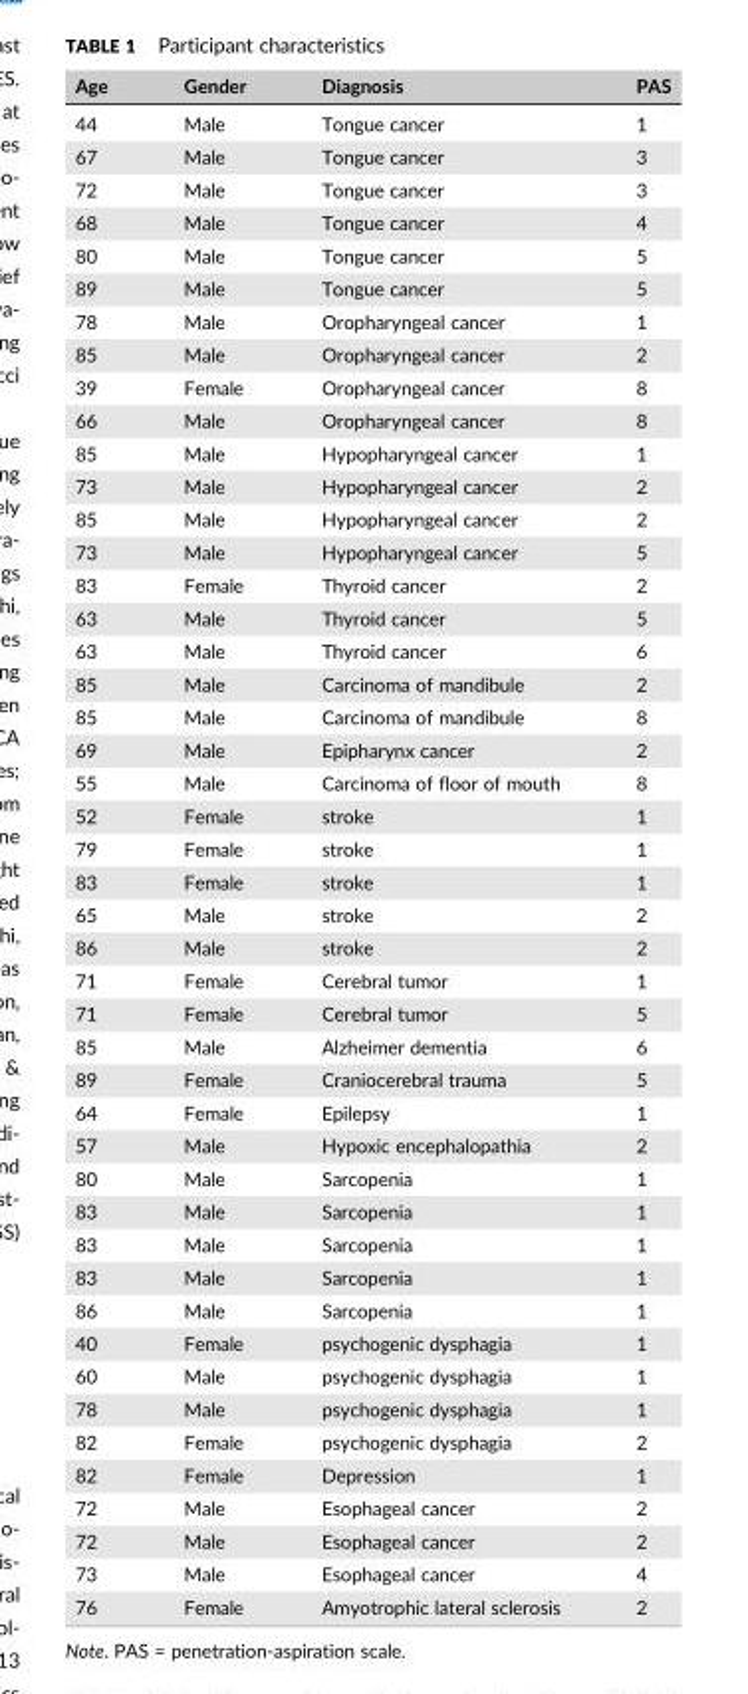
<table><thead><tr><td>Age</td><td>Gender</td><td>Diagnosis</td><td>PAS</td></tr></thead><tbody><tr><td>44</td><td>Male</td><td>Tongue cancer</td><td>1</td></tr><tr><td>67</td><td>Male</td><td>Tongue cancer</td><td>3</td></tr><tr><td>72</td><td>Male</td><td>Tongue cancer</td><td>3</td></tr><tr><td>68</td><td>Male</td><td>Tongue cancer</td><td>4</td></tr><tr><td>80</td><td>Male</td><td>Tongue cancer</td><td>5</td></tr><tr><td>89</td><td>Male</td><td>Tongue cancer</td><td>5</td></tr><tr><td>78</td><td>Male</td><td>Oropharyngeal cancer</td><td>1</td></tr><tr><td>85</td><td>Male</td><td>Oropharyngeal cancer</td><td>2</td></tr><tr><td>39</td><td>Female</td><td>Oropharyngeal cancer</td><td>8</td></tr><tr><td>66</td><td>Male</td><td>Oropharyngeal cancer</td><td>8</td></tr><tr><td>85</td><td>Male</td><td>Hypopharyngeal cancer</td><td>1</td></tr><tr><td>73</td><td>Male</td><td>Hypopharyngeal cancer</td><td>2</td></tr><tr><td>85</td><td>Male</td><td>Hypopharyngeal cancer</td><td>2</td></tr><tr><td>73</td><td>Male</td><td>Hypopharyngeal cancer</td><td>5</td></tr><tr><td>83</td><td>Female</td><td>Thyroid cancer</td><td>2</td></tr><tr><td>63</td><td>Male</td><td>Thyroid cancer</td><td>5</td></tr><tr><td>63</td><td>Male</td><td>Thyroid cancer</td><td>6</td></tr><tr><td>85</td><td>Male</td><td>Carcinoma of mandibule</td><td>2</td></tr><tr><td>85</td><td>Male</td><td>Carcinoma of mandibule</td><td>8</td></tr><tr><td>69</td><td>Male</td><td>Epipharynx cancer</td><td>2</td></tr><tr><td>55</td><td>Male</td><td>Carcinoma of floor of mouth</td><td>8</td></tr><tr><td>52</td><td>Female</td><td>stroke</td><td>1</td></tr><tr><td>79</td><td>Female</td><td>stroke</td><td>1</td></tr><tr><td>83</td><td>Female</td><td>stroke</td><td>1</td></tr><tr><td>65</td><td>Male</td><td>stroke</td><td>2</td></tr><tr><td>86</td><td>Male</td><td>stroke</td><td>2</td></tr><tr><td>71</td><td>Female</td><td>Cerebral tumor</td><td>1</td></tr><tr><td>71</td><td>Female</td><td>Cerebral tumor</td><td>5</td></tr><tr><td>85</td><td>Male</td><td>Alzheimer dementia</td><td>6</td></tr><tr><td>89</td><td>Female</td><td>Craniocerebral trauma</td><td>5</td></tr><tr><td>64</td><td>Female</td><td>Epilepsy</td><td>1</td></tr><tr><td>57</td><td>Male</td><td>Hypoxic encephalopathia</td><td>2</td></tr><tr><td>80</td><td>Male</td><td>Sarcopenia</td><td>1</td></tr><tr><td>83</td><td>Male</td><td>Sarcopenia</td><td>1</td></tr><tr><td>83</td><td>Male</td><td>Sarcopenia</td><td>1</td></tr><tr><td>83</td><td>Male</td><td>Sarcopenia</td><td>1</td></tr><tr><td>86</td><td>Male</td><td>Sarcopenia</td><td>1</td></tr><tr><td>40</td><td>Female</td><td>psychogenic dysphagia</td><td>1</td></tr><tr><td>60</td><td>Male</td><td>psychogenic dysphagia</td><td>1</td></tr><tr><td>78</td><td>Male</td><td>psychogenic dysphagia</td><td>1</td></tr><tr><td>82</td><td>Female</td><td>psychogenic dysphagia</td><td>2</td></tr><tr><td>82</td><td>Female</td><td>Depression</td><td>1</td></tr><tr><td>72</td><td>Male</td><td>Esophageal cancer</td><td>2</td></tr><tr><td>72</td><td>Male</td><td>Esophageal cancer</td><td>2</td></tr><tr><td>73</td><td>Male</td><td>Esophageal cancer</td><td>4</td></tr><tr><td>76</td><td>Female</td><td>Amyotrophic lateral sclerosis</td><td>2</td></tr></tbody></table>